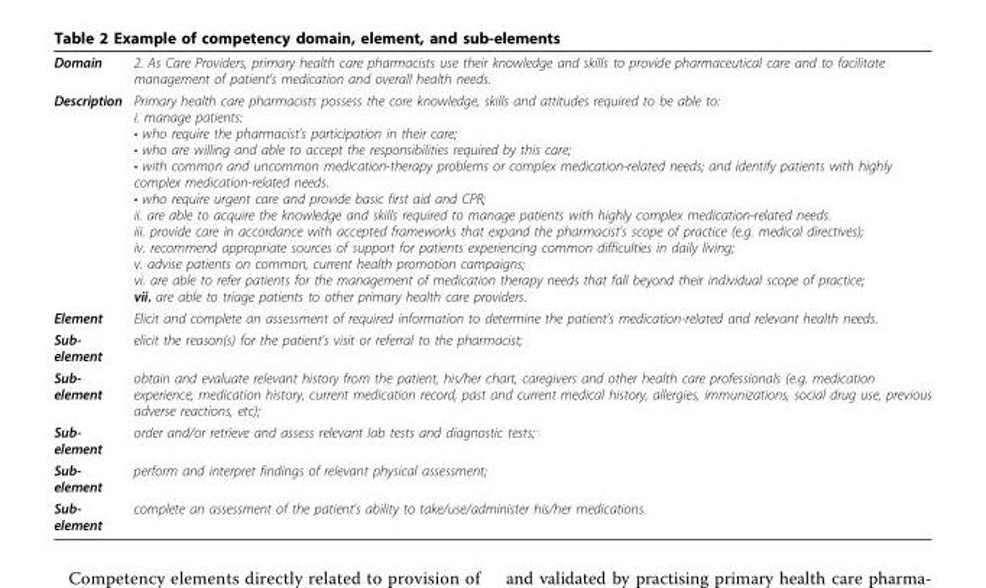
<table><tbody><tr><td>Domain</td><td>2. As Care Providers, primary health care pharmacists use their knowledge and skills to provide pharmaceutical care and to facilitate management of patient’s medication and overall health needs.</td></tr><tr><td>Description</td><td>Primary health care pharmacists possess the core knowledge, skills and attitudes required to be able to: i. manage patients: • who require the pharmacist’s participation in their care; • who are willing and able to accept the responsibilities required by this care; • with common and uncommon medication-therapy problems or complex medication-related needs; and identify patients with highly complex medication-related needs. • who require urgent care and provide basic first aid and CPR; ii. are able to acquire the knowledge and skills required to manage patients with highly complex medication-related needs. iii. provide care in accordance with accepted frameworks that expand the pharmacist’s scope of practice (e.g. medical directives); iv. recommend appropriate sources of support for patients experiencing common difficulties in daily living; v. advise patients on common, current health promotion campaigns; vi. are able to refer patients for the management of medication therapy needs that fall beyond their individual scope of practice; vii. are able to triage patients to other primary health care providers.</td></tr><tr><td>Element</td><td>Elicit and complete an assessment of required information to determine the patient’s medication-related and relevant health needs.</td></tr><tr><td>Sub- element</td><td>elicit the reason(s) for the patient’s visit or referral to the pharmacist;</td></tr><tr><td>Sub- element</td><td>obtain and evaluate relevant history from the patient, his/her chart, caregivers and other health care professionals (e.g. medication experience, medication history, current medication record, past and current medical history, allergies, immunizations, social drug use, previous adverse reactions, etc);</td></tr><tr><td>Sub- element</td><td>order and/or retrieve and assess relevant lab tests and diagnostic tests;</td></tr><tr><td>Sub- element</td><td>perform and interpret findings of relevant physical assessment;</td></tr><tr><td>Sub- element</td><td>complete an assessment of the patient’s ability to take/use/administer his/her medications.</td></tr></tbody></table>